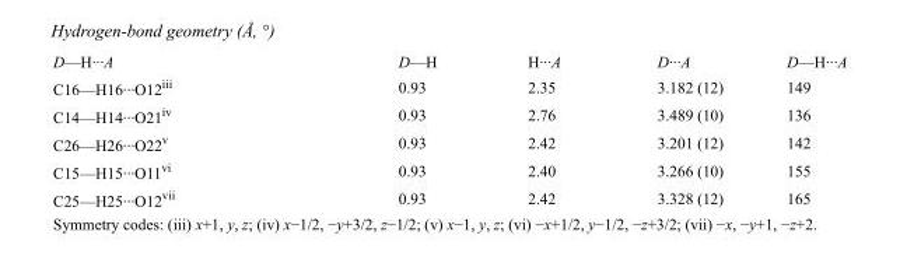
<table><tbody><tr><td>D—H···A</td><td>D—H</td><td>H···A</td><td>D···A</td><td>D—H···A</td></tr><tr><td>C16—H16···O12<sup>iii</sup></td><td>0.93</td><td>2.35</td><td>3.182 (12)</td><td>149</td></tr><tr><td>C14—H14···O21<sup>iv</sup></td><td>0.93</td><td>2.76</td><td>3.489 (10)</td><td>136</td></tr><tr><td>C26—H26···O22<sup>v</sup></td><td>0.93</td><td>2.42</td><td>3.201 (12)</td><td>142</td></tr><tr><td>C15—H15···O11<sup>vi</sup></td><td>0.93</td><td>2.40</td><td>3.266 (10)</td><td>155</td></tr><tr><td>C25—H25···O12<sup>vii</sup></td><td>0.93</td><td>2.42</td><td>3.328 (12)</td><td>165</td></tr></tbody></table>